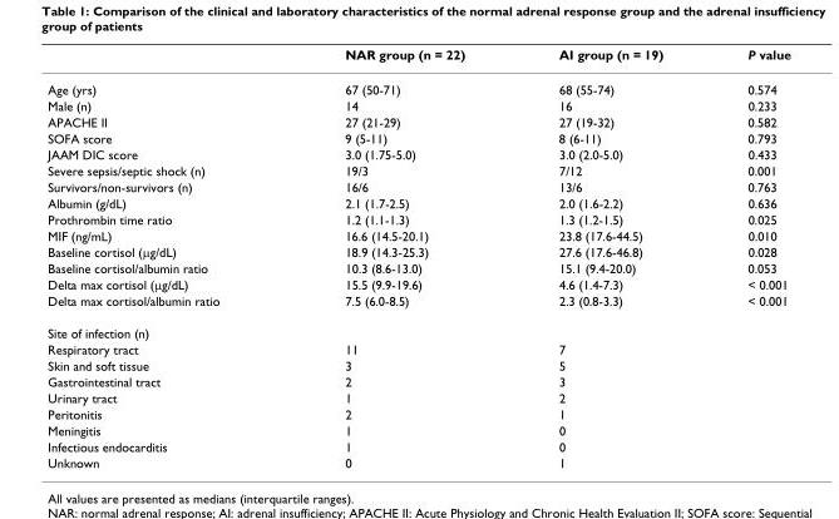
<table><thead><tr><td></td><td>NAR group (n = 22)</td><td>AI group (n = 19)</td><td>P value</td></tr></thead><tbody><tr><td>Age (yrs)</td><td>67 (50-71)</td><td>68 (55-74)</td><td>0.574</td></tr><tr><td>Male (n)</td><td>14</td><td>16</td><td>0.233</td></tr><tr><td>APACHE II</td><td>27 (21-29)</td><td>27 (19-32)</td><td>0.582</td></tr><tr><td>SOFA score</td><td>9 (5-11)</td><td>8 (6-11)</td><td>0.793</td></tr><tr><td>JAAM DIC score</td><td>3.0 (1.75-5.0)</td><td>3.0 (2.0-5.0)</td><td>0.433</td></tr><tr><td>Severe sepsis/septic shock (n)</td><td>19/3</td><td>7/12</td><td>0.001</td></tr><tr><td>Survivors/non-survivors (n)</td><td>16/6</td><td>13/6</td><td>0.763</td></tr><tr><td>Albumin (g/dL)</td><td>2.1 (1.7-2.5)</td><td>2.0 (1.6-2.2)</td><td>0.636</td></tr><tr><td>Prothrombin time ratio</td><td>1.2 (1.1-1.3)</td><td>1.3 (1.2-1.5)</td><td>0.025</td></tr><tr><td>MIF (ng/mL)</td><td>16.6 (14.5-20.1)</td><td>23.8 (17.6-44.5)</td><td>0.010</td></tr><tr><td>Baseline cortisol (μg/dL)</td><td>18.9 (14.3-25.3)</td><td>27.6 (17.6-46.8)</td><td>0.028</td></tr><tr><td>Baseline cortisol/albumin ratio</td><td>10.3 (8.6-13.0)</td><td>15.1 (9.4-20.0)</td><td>0.053</td></tr><tr><td>Delta max cortisol (μg/dL)</td><td>15.5 (9.9-19.6)</td><td>4.6 (1.4-7.3)</td><td>&lt; 0.001</td></tr><tr><td>Delta max cortisol/albumin ratio</td><td>7.5 (6.0-8.5)</td><td>2.3 (0.8-3.3)</td><td>&lt; 0.001</td></tr><tr><td colspan="4">Site of infection (n)</td></tr><tr><td>Respiratory tract</td><td>11</td><td>7</td><td></td></tr><tr><td>Skin and soft tissue</td><td>3</td><td>5</td><td></td></tr><tr><td>Gastrointestinal tract</td><td>2</td><td>3</td><td></td></tr><tr><td>Urinary tract</td><td>1</td><td>2</td><td></td></tr><tr><td>Peritonitis</td><td>2</td><td>1</td><td></td></tr><tr><td>Meningitis</td><td>1</td><td>0</td><td></td></tr><tr><td>Infectious endocarditis</td><td>1</td><td>0</td><td></td></tr><tr><td>Unknown</td><td>0</td><td>1</td><td></td></tr></tbody></table>